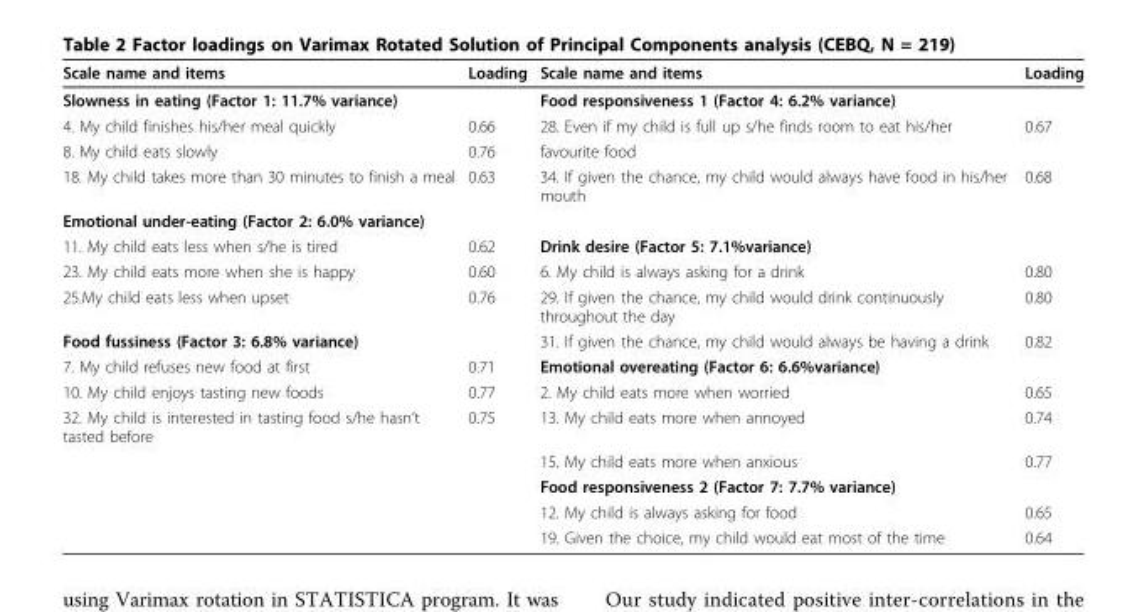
<table><thead><tr><td>Scale name and items</td><td>Loading</td><td>Scale name and items</td><td>Loading</td></tr></thead><tbody><tr><td>Slowness in eating (Factor 1: 11.7% variance)</td><td></td><td>Food responsiveness 1 (Factor 4: 6.2% variance)</td><td></td></tr><tr><td>4. My child finishes his/her meal quickly</td><td>0.66</td><td>28. Even if my child is full up s/he finds room to eat his/her</td><td>0.67</td></tr><tr><td>8. My child eats slowly</td><td>0.76</td><td>favourite food</td><td></td></tr><tr><td>18. My child takes more than 30 minutes to finish a meal</td><td>0.63</td><td>34. If given the chance, my child would always have food in his/her mouth</td><td>0.68</td></tr><tr><td colspan="4">Emotional under-eating (Factor 2: 6.0% variance)</td></tr><tr><td>11. My child eats less when s/he is tired</td><td>0.62</td><td>Drink desire (Factor 5: 7.1%variance)</td><td></td></tr><tr><td>23. My child eats more when she is happy</td><td>0.60</td><td>6. My child is always asking for a drink</td><td>0.80</td></tr><tr><td>25.My child eats less when upset</td><td>0.76</td><td>29. If given the chance, my child would drink continuously throughout the day</td><td>0.80</td></tr><tr><td>Food fussiness (Factor 3: 6.8% variance)</td><td></td><td>31. If given the chance, my child would always be having a drink</td><td>0.82</td></tr><tr><td>7. My child refuses new food at first</td><td>0.71</td><td>Emotional overeating (Factor 6: 6.6%variance)</td><td></td></tr><tr><td>10. My child enjoys tasting new foods</td><td>0.77</td><td>2. My child eats more when worried</td><td>0.65</td></tr><tr><td rowspan="5">32. My child is interested in tasting food s/he hasn’t tasted before</td><td>0.75</td><td>13. My child eats more when annoyed</td><td>0.74</td></tr><tr><td></td><td>15. My child eats more when anxious</td><td>0.77</td></tr><tr><td></td><td>Food responsiveness 2 (Factor 7: 7.7% variance)</td><td></td></tr><tr><td></td><td>12. My child is always asking for food</td><td>0.65</td></tr><tr><td></td><td>19. Given the choice, my child would eat most of the time</td><td>0.64</td></tr></tbody></table>